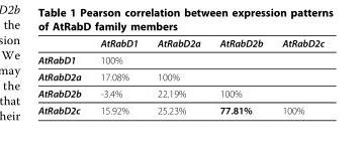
<table><thead><tr><td></td><td>AtRabD1</td><td>AtRabD2a</td><td>AtRabD2b</td><td>AtRabD2c</td></tr></thead><tbody><tr><td>AtRabD1</td><td>100%</td><td></td><td></td><td></td></tr><tr><td>AtRabD2a</td><td>17.08%</td><td>100%</td><td></td><td></td></tr><tr><td>AtRabD2b</td><td>-3.4%</td><td>22.19%</td><td>100%</td><td></td></tr><tr><td>AtRabD2c</td><td>15.92%</td><td>25.23%</td><td>77.81%</td><td>100%</td></tr></tbody></table>